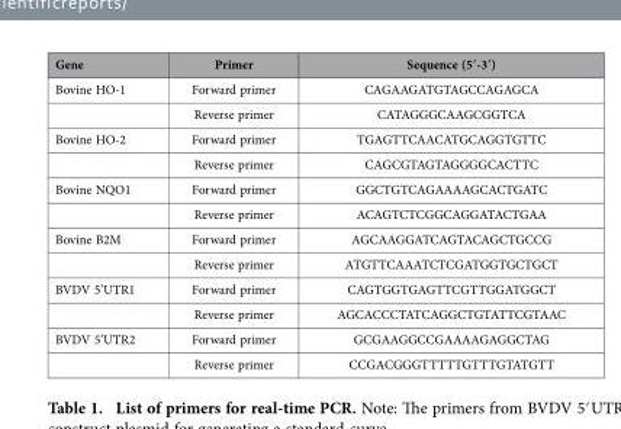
<table><thead><tr><td>Gene</td><td>Primer</td><td>Sequence (5′-3′)</td></tr></thead><tbody><tr><td rowspan="2">Bovine HO-1</td><td>Forward primer</td><td>CAGAAGATGTAGCCAGAGCA</td></tr><tr><td>Reverse primer</td><td>CATAGGGCAAGCGGTCA</td></tr><tr><td rowspan="2">Bovine HO-2</td><td>Forward primer</td><td>TGAGTTCAACATGCAGGTGTTC</td></tr><tr><td>Reverse primer</td><td>CAGCGTAGTAGGGGCACTTC</td></tr><tr><td rowspan="2">Bovine NQO1</td><td>Forward primer</td><td>GGCTGTCAGAAAAGCACTGATC</td></tr><tr><td>Reverse primer</td><td>ACAGTCTCGGCAGGATACTGAA</td></tr><tr><td rowspan="2">Bovine B2M</td><td>Forward primer</td><td>AGCAAGGATCAGTACAGCTGCCG</td></tr><tr><td>Reverse primer</td><td>ATGTTCAAATCTCGATGGTGCTGCT</td></tr><tr><td rowspan="2">BVDV 5’UTR1</td><td>Forward primer</td><td>CAGTGGTGAGTTCGTTGGATGGCT</td></tr><tr><td>Reverse primer</td><td>AGCACCCTATCAGGCTGTATTCGTAAC</td></tr><tr><td rowspan="2">BVDV 5’UTR2</td><td>Forward primer</td><td>GCGAAGGCCGAAAAGAGGCTAG</td></tr><tr><td>Reverse primer</td><td>CCGACGGGTTTTTGTTTGTATGTT</td></tr></tbody></table>